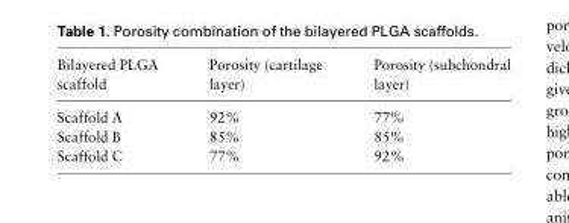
<table><thead><tr><td>Bilayered PLGA scaffold</td><td>Porosity (cartilage layer)</td><td>Porosity (subchondral layer)</td></tr></thead><tbody><tr><td>Scaffold A</td><td>92%</td><td>77%</td></tr><tr><td>Scaffold B</td><td>85%</td><td>85%</td></tr><tr><td>Scaffold C</td><td>77%</td><td>92%</td></tr></tbody></table>